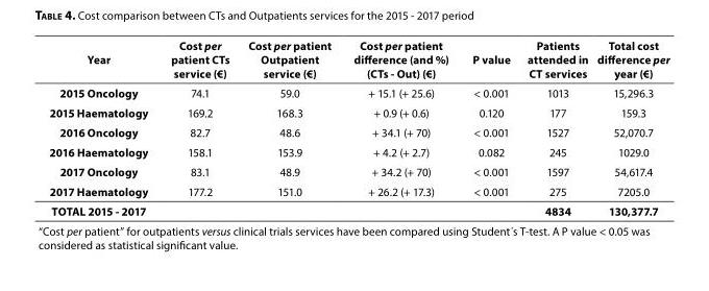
<table><thead><tr><td>Year</td><td>Cost per patient CTs service (€)</td><td>Cost per patient Outpatient service (€)</td><td>Cost per patient difference (and %) (CTs - Out) (€)</td><td>P value</td><td>Patients attended in CT services</td><td>Total cost difference per year (€)</td></tr></thead><tbody><tr><td>2015 Oncology</td><td>74.1</td><td>59.0</td><td>+ 15.1 (+ 25.6)</td><td>&lt; 0.001</td><td>1013</td><td>15,296.3</td></tr><tr><td>2015 Haematology</td><td>169.2</td><td>168.3</td><td>+ 0.9 (+ 0.6)</td><td>0.120</td><td>177</td><td>159.3</td></tr><tr><td>2016 Oncology</td><td>82.7</td><td>48.6</td><td>+ 34.1 (+ 70)</td><td>&lt; 0.001</td><td>1527</td><td>52,070.7</td></tr><tr><td>2016 Haematology</td><td>158.1</td><td>153.9</td><td>+ 4.2 (+ 2.7)</td><td>0.082</td><td>245</td><td>1029.0</td></tr><tr><td>2017 Oncology</td><td>83.1</td><td>48.9</td><td>+ 34.2 (+ 70)</td><td>&lt; 0.001</td><td>1597</td><td>54,617.4</td></tr><tr><td>2017 Haematology</td><td>177.2</td><td>151.0</td><td>+ 26.2 (+ 17.3)</td><td>&lt; 0.001</td><td>275</td><td>7205.0</td></tr><tr><td>TOTAL 2015 - 2017</td><td></td><td></td><td colspan="2"></td><td>4834</td><td>130,377.7</td></tr><tr><td colspan="7">“Cost per patient” for outpatients versus clinical trials services have been compared using Student´s T-test. A P value &lt; 0.05 was considered as statistical significant value.</td></tr></tbody></table>